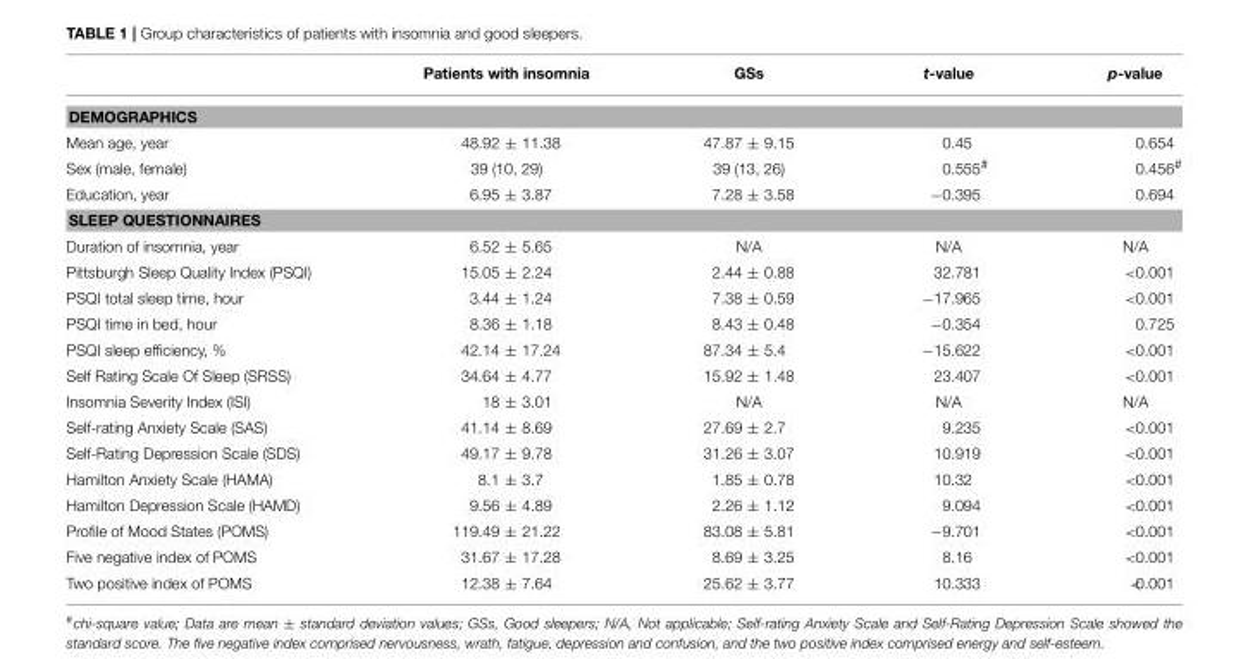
<table><thead><tr><td></td><td>Patients with insomnia</td><td>GSs</td><td>t-value</td><td>p-value</td></tr></thead><tbody><tr><td colspan="5">DEMOGRAPHICS</td></tr><tr><td>Mean age, year</td><td>48.92 ± 11.38</td><td>47.87 ± 9.15</td><td>0.45</td><td>0.654</td></tr><tr><td>Sex (male, female)</td><td>39 (10, 29)</td><td>39 (13, 26)</td><td>0.555<sup>#</sup></td><td>0.456<sup>#</sup></td></tr><tr><td>Education, year</td><td>6.95 ± 3.87</td><td>7.28 ± 3.58</td><td>−0.395</td><td>0.694</td></tr><tr><td colspan="5">SLEEP QUESTIONNAIRES</td></tr><tr><td>Duration of insomnia, year</td><td>6.52 ± 5.65</td><td>N/A</td><td>N/A</td><td>N/A</td></tr><tr><td>Pittsburgh Sleep Quality Index (PSQI)</td><td>15.05 ± 2.24</td><td>2.44 ± 0.88</td><td>32.781</td><td>&lt;0.001</td></tr><tr><td>PSQI total sleep time, hour</td><td>3.44 ± 1.24</td><td>7.38 ± 0.59</td><td>−17.965</td><td>&lt;0.001</td></tr><tr><td>PSQI time in bed, hour</td><td>8.36 ± 1.18</td><td>8.43 ± 0.48</td><td>−0.354</td><td>0.725</td></tr><tr><td>PSQI sleep efficiency, %</td><td>42.14 ± 17.24</td><td>87.34 ± 5.4</td><td>−15.622</td><td>&lt;0.001</td></tr><tr><td>Self Rating Scale Of Sleep (SRSS)</td><td>34.64 ± 4.77</td><td>15.92 ± 1.48</td><td>23.407</td><td>&lt;0.001</td></tr><tr><td>Insomnia Severity Index (ISI)</td><td>18 ± 3.01</td><td>N/A</td><td>N/A</td><td>N/A</td></tr><tr><td>Self-rating Anxiety Scale (SAS)</td><td>41.14 ± 8.69</td><td>27.69 ± 2.7</td><td>9.235</td><td>&lt;0.001</td></tr><tr><td>Self-Rating Depression Scale (SDS)</td><td>49.17 ± 9.78</td><td>31.26 ± 3.07</td><td>10.919</td><td>&lt;0.001</td></tr><tr><td>Hamilton Anxiety Scale (HAMA)</td><td>8.1 ± 3.7</td><td>1.85 ± 0.78</td><td>10.32</td><td>&lt;0.001</td></tr><tr><td>Hamilton Depression Scale (HAMD)</td><td>9.56 ± 4.89</td><td>2.26 ± 1.12</td><td>9.094</td><td>&lt;0.001</td></tr><tr><td>Profile of Mood States (POMS)</td><td>119.49 ± 21.22</td><td>83.08 ± 5.81</td><td>−9.701</td><td>&lt;0.001</td></tr><tr><td>Five negative index of POMS</td><td>31.67 ± 17.28</td><td>8.69 ± 3.25</td><td>8.16</td><td>&lt;0.001</td></tr><tr><td>Two positive index of POMS</td><td>12.38 ± 7.64</td><td>25.62 ± 3.77</td><td>10.333</td><td>&lt;0.001</td></tr></tbody></table>